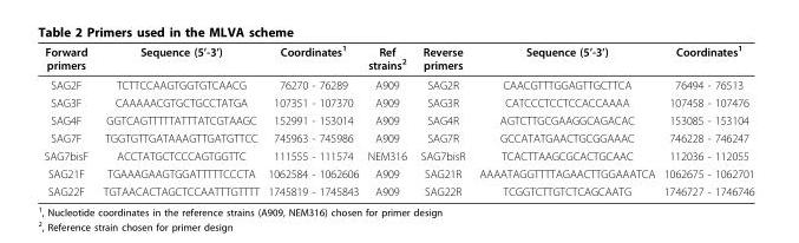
<table><thead><tr><td>Forward primers</td><td>Sequence (5’-3’)</td><td>Coordinates<sup>1</sup></td><td>Ref strains<sup>2</sup></td><td>Reverse primers</td><td>Sequence (5’-3’)</td><td>Coordinates<sup>1</sup></td></tr></thead><tbody><tr><td>SAG2F</td><td>TCTTCCAAGTGGTGTCAACG</td><td>76270 - 76289</td><td>A909</td><td>SAG2R</td><td>CAACGTTTGGAGTTGCTTCA</td><td>76494 - 76513</td></tr><tr><td>SAG3F</td><td>CAAAAACGTGCTGCCTATGA</td><td>107351 - 107370</td><td>A909</td><td>SAG3R</td><td>CATCCCTCCTCCACCAAAA</td><td>107458 - 107476</td></tr><tr><td>SAG4F</td><td>GGTCAGTTTTTATTTATCGTAAGC</td><td>152991 - 153014</td><td>A909</td><td>SAG4R</td><td>AGTCTTGCGAAGGCAGACAC</td><td>153085 - 153104</td></tr><tr><td>SAG7F</td><td>TGGTGTTGATAAAGTTGATGTTCC</td><td>745963 - 745986</td><td>A909</td><td>SAG7R</td><td>GCCATATGAACTGCGGAAAC</td><td>746228 - 746247</td></tr><tr><td>SAG7bisF</td><td>ACCTATGCTCCCAGTGGTTC</td><td>111555 - 111574</td><td>NEM316</td><td>SAG7bisR</td><td>TCACTTAAGCGCACTGCAAC</td><td>112036 - 112055</td></tr><tr><td>SAG21F</td><td>TGAAAGAAGTGGATTTTTCCCTA</td><td>1062584 - 1062606</td><td>A909</td><td>SAG21R</td><td>AAAATAGGTTTTAGAACTTGGAAATCA</td><td>1062675 - 1062701</td></tr><tr><td>SAG22F</td><td>TGTAACACTAGCTCCAATTTGTTTT</td><td>1745819 - 1745843</td><td>A909</td><td>SAG22R</td><td>TCGGTCTTGTCTCAGCAATG</td><td>1746727 - 1746746</td></tr></tbody></table>